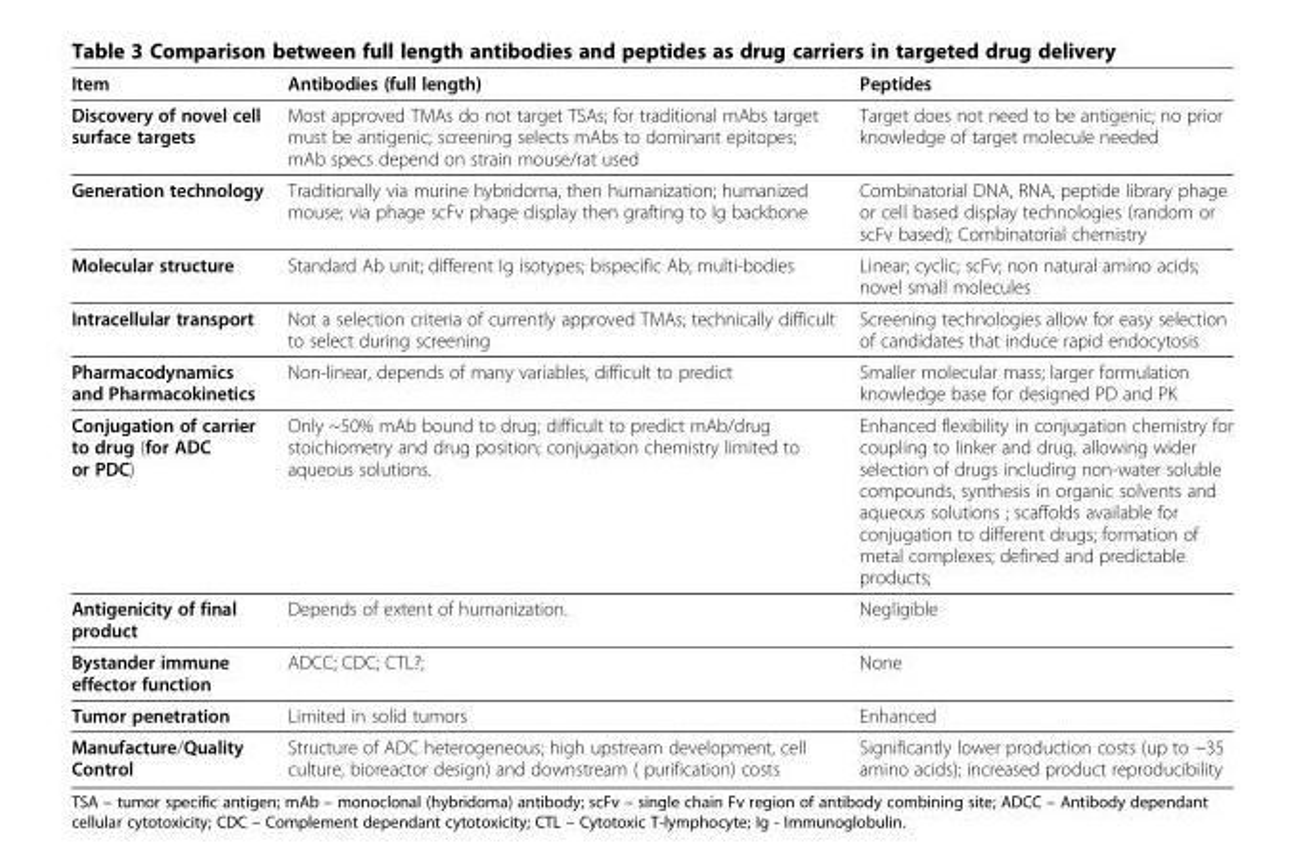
<table><thead><tr><td>Item</td><td>Antibodies (full length)</td><td>Peptides</td></tr></thead><tbody><tr><td>Discovery of novel cell surface targets</td><td>Most approved TMAs do not target TSAs; for traditional mAbs target must be antigenic; screening selects mAbs to dominant epitopes; mAb specs depend on strain mouse/rat used</td><td>Target does not need to be antigenic; no prior knowledge of target molecule needed</td></tr><tr><td>Generation technology</td><td>Traditionally via murine hybridoma, then humanization; humanized mouse; via phage scFv phage display then grafting to Ig backbone</td><td>Combinatorial DNA, RNA, peptide library phage or cell based display technologies (random or scFv based); Combinatorial chemistry</td></tr><tr><td>Molecular structure</td><td>Standard Ab unit; different Ig isotypes; bispecific Ab; multi-bodies</td><td>Linear; cyclic; scFv; non natural amino acids; novel small molecules</td></tr><tr><td>Intracellular transport</td><td>Not a selection criteria of currently approved TMAs; technically difficult to select during screening</td><td>Screening technologies allow for easy selection of candidates that induce rapid endocytosis</td></tr><tr><td>Pharmacodynamics and Pharmacokinetics</td><td>Non-linear, depends of many variables, difficult to predict</td><td>Smaller molecular mass; larger formulation knowledge base for designed PD and PK</td></tr><tr><td>Conjugation of carrier to drug (for ADC or PDC)</td><td>Only ~50% mAb bound to drug; difficult to predict mAb/drug stoichiometry and drug position; conjugation chemistry limited to aqueous solutions.</td><td>Enhanced flexibility in conjugation chemistry for coupling to linker and drug, allowing wider selection of drugs including non-water soluble compounds, synthesis in organic solvents and aqueous solutions ; scaffolds available for conjugation to different drugs; formation of metal complexes; defined and predictable products;</td></tr><tr><td>Antigenicity of final product</td><td>Depends of extent of humanization.</td><td>Negligible</td></tr><tr><td>Bystander immune effector function</td><td>ADCC; CDC; CTL?;</td><td>None</td></tr><tr><td>Tumor penetration</td><td>Limited in solid tumors</td><td>Enhanced</td></tr><tr><td>Manufacture/Quality Control</td><td>Structure of ADC heterogeneous; high upstream development, cell culture, bioreactor design) and downstream ( purification) costs</td><td>Significantly lower production costs (up to ~35 amino acids); increased product reproducibility</td></tr></tbody></table>